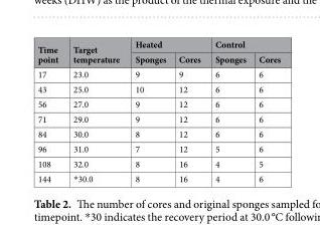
<table><thead><tr><td rowspan="2">Time point</td><td rowspan="2">Target temperature</td><td colspan="2">Heated</td><td colspan="2">Control</td></tr><tr><td>Sponges</td><td>Cores</td><td>Sponges</td><td>Cores</td></tr></thead><tbody><tr><td>17</td><td>23.0</td><td>9</td><td>9</td><td>6</td><td>6</td></tr><tr><td>43</td><td>25.0</td><td>10</td><td>12</td><td>6</td><td>6</td></tr><tr><td>56</td><td>27.0</td><td>9</td><td>12</td><td>6</td><td>6</td></tr><tr><td>71</td><td>29.0</td><td>9</td><td>12</td><td>6</td><td>6</td></tr><tr><td>84</td><td>30.0</td><td>8</td><td>12</td><td>6</td><td>6</td></tr><tr><td>96</td><td>31.0</td><td>7</td><td>12</td><td>5</td><td>6</td></tr><tr><td>108</td><td>32.0</td><td>8</td><td>16</td><td>4</td><td>5</td></tr><tr><td>144</td><td>*30.0</td><td>8</td><td>16</td><td>4</td><td>6</td></tr></tbody></table>